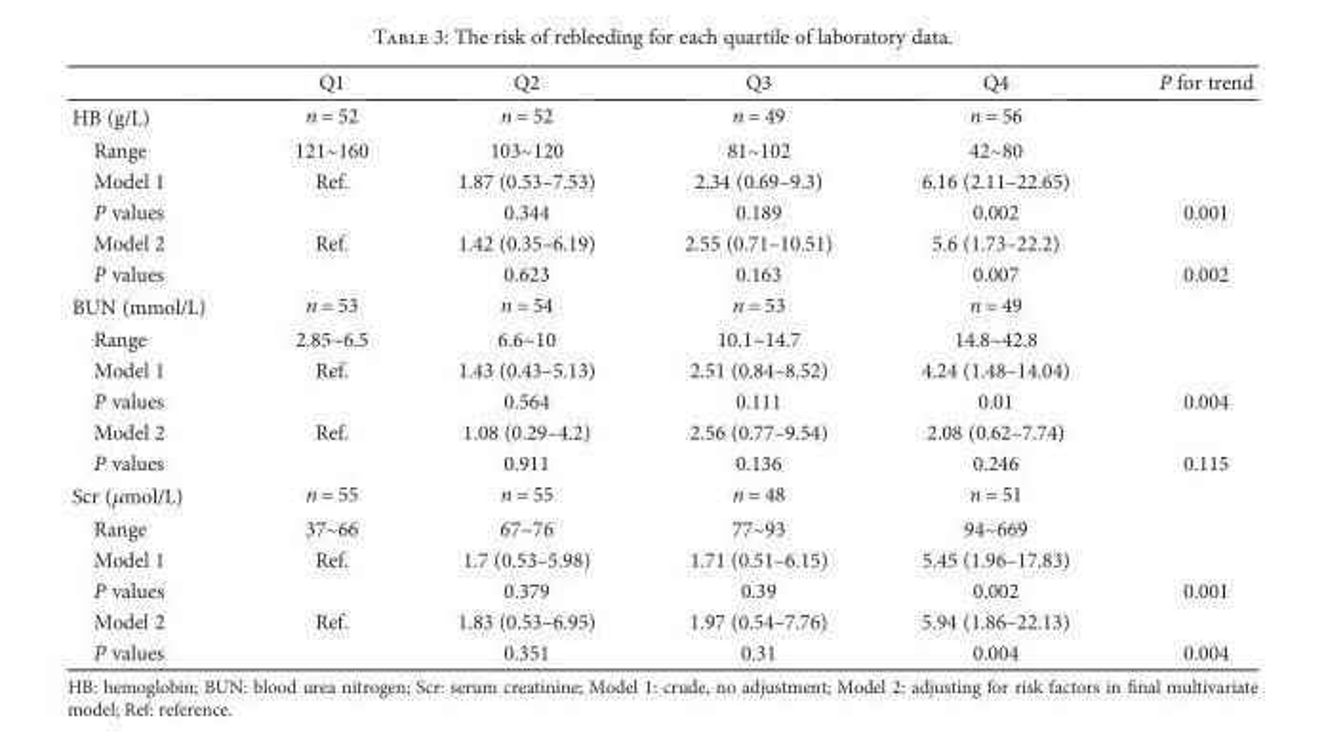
<table><thead><tr><td></td><td>Q1</td><td>Q2</td><td>Q3</td><td>Q4</td><td>P for trend</td></tr></thead><tbody><tr><td>HB (g/L)</td><td>n = 52</td><td>n = 52</td><td>n = 49</td><td>n = 56</td><td></td></tr><tr><td>Range</td><td>121~160</td><td>103~120</td><td>81~102</td><td>42~80</td><td></td></tr><tr><td>Model 1</td><td>Ref.</td><td>1.87 (0.53–7.53)</td><td>2.34 (0.69–9.3)</td><td>6.16 (2.11–22.65)</td><td></td></tr><tr><td>P values</td><td></td><td>0.344</td><td>0.189</td><td>0.002</td><td>0.001</td></tr><tr><td>Model 2</td><td>Ref.</td><td>1.42 (0.35–6.19)</td><td>2.55 (0.71–10.51)</td><td>5.6 (1.73–22.2)</td><td></td></tr><tr><td>P values</td><td></td><td>0.623</td><td>0.163</td><td>0.007</td><td>0.002</td></tr><tr><td>BUN (mmol/L)</td><td>n = 53</td><td>n = 54</td><td>n = 53</td><td>n = 49</td><td></td></tr><tr><td>Range</td><td>2.85~6.5</td><td>6.6~10</td><td>10.1~14.7</td><td>14.8~42.8</td><td></td></tr><tr><td>Model 1</td><td>Ref.</td><td>1.43 (0.43–5.13)</td><td>2.51 (0.84–8.52)</td><td>4.24 (1.48–14.04)</td><td></td></tr><tr><td>P values</td><td></td><td>0.564</td><td>0.111</td><td>0.01</td><td>0.004</td></tr><tr><td>Model 2</td><td>Ref.</td><td>1.08 (0.29–4.2)</td><td>2.56 (0.77–9.54)</td><td>2.08 (0.62–7.74)</td><td></td></tr><tr><td>P values</td><td></td><td>0.911</td><td>0.136</td><td>0.246</td><td>0.115</td></tr><tr><td>Scr (μmol/L)</td><td>n = 55</td><td>n = 55</td><td>n = 48</td><td>n = 51</td><td></td></tr><tr><td>Range</td><td>37~66</td><td>67~76</td><td>77~93</td><td>94~669</td><td></td></tr><tr><td>Model 1</td><td>Ref.</td><td>1.7 (0.53–5.98)</td><td>1.71 (0.51–6.15)</td><td>5.45 (1.96–17.83)</td><td></td></tr><tr><td>P values</td><td></td><td>0.379</td><td>0.39</td><td>0.002</td><td>0.001</td></tr><tr><td>Model 2</td><td>Ref.</td><td>1.83 (0.53–6.95)</td><td>1.97 (0.54–7.76)</td><td>5.94 (1.86–22.13)</td><td></td></tr><tr><td>P values</td><td></td><td>0.351</td><td>0.31</td><td>0.004</td><td>0.004</td></tr></tbody></table>